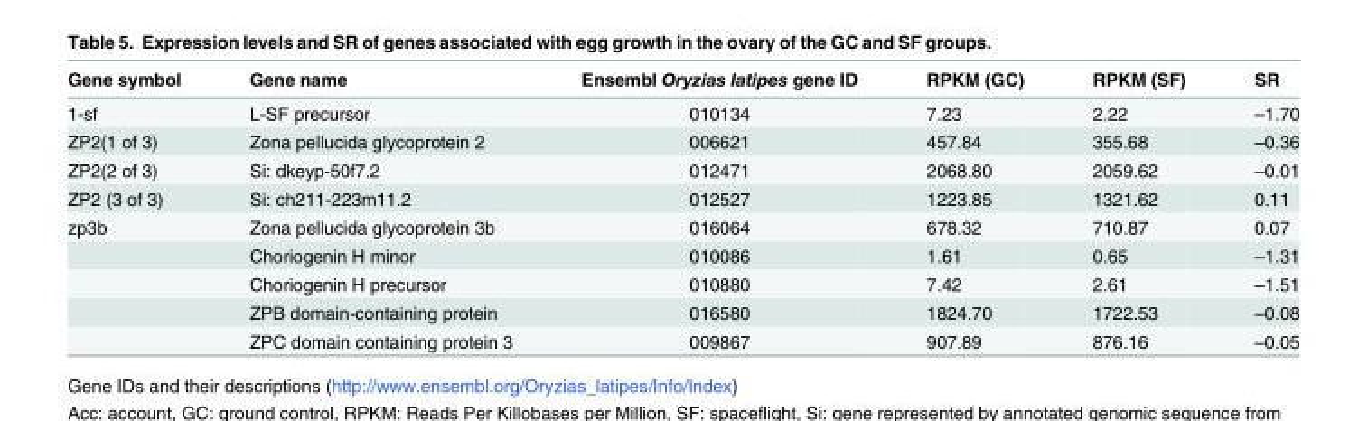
<table><thead><tr><td>Gene symbol</td><td>Gene name</td><td>Ensembl Oryzias latipes gene ID</td><td>RPKM (GC)</td><td>RPKM (SF)</td><td>SR</td></tr></thead><tbody><tr><td>1-sf</td><td>L-SF precursor</td><td>010134</td><td>7.23</td><td>2.22</td><td>–1.70</td></tr><tr><td>ZP2(1 of 3)</td><td>Zona pellucida glycoprotein 2</td><td>006621</td><td>457.84</td><td>355.68</td><td>–0.36</td></tr><tr><td>ZP2(2 of 3)</td><td>Si: dkeyp-50f7.2</td><td>012471</td><td>2068.80</td><td>2059.62</td><td>–0.01</td></tr><tr><td>ZP2 (3 of 3)</td><td>Si: ch211-223m11.2</td><td>012527</td><td>1223.85</td><td>1321.62</td><td>0.11</td></tr><tr><td rowspan="5">zp3b</td><td>Zona pellucida glycoprotein 3b</td><td>016064</td><td>678.32</td><td>710.87</td><td>0.07</td></tr><tr><td>Choriogenin H minor</td><td>010086</td><td>1.61</td><td>0.65</td><td>–1.31</td></tr><tr><td>Choriogenin H precursor</td><td>010880</td><td>7.42</td><td>2.61</td><td>–1.51</td></tr><tr><td>ZPB domain-containing protein</td><td>016580</td><td>1824.70</td><td>1722.53</td><td>–0.08</td></tr><tr><td>ZPC domain containing protein 3</td><td>009867</td><td>907.89</td><td>876.16</td><td>–0.05</td></tr></tbody></table>